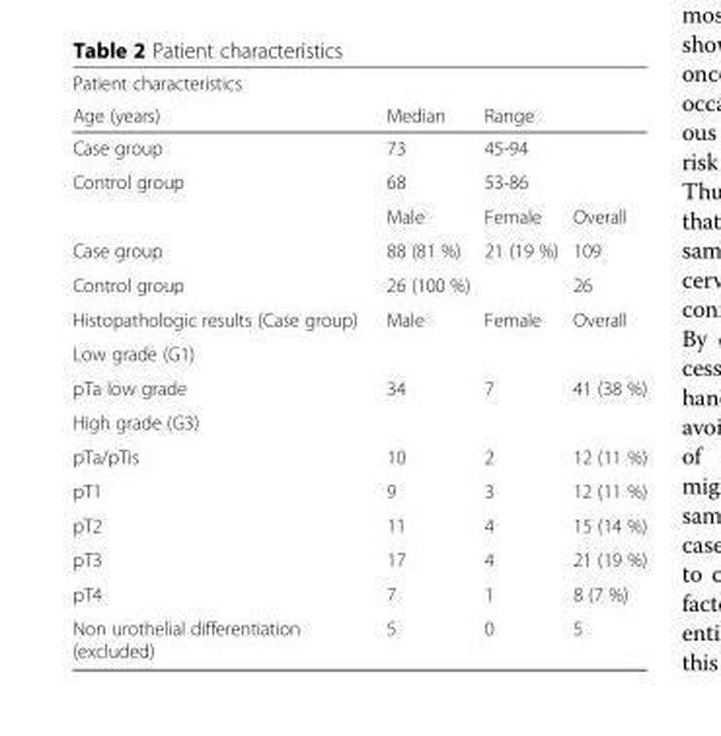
<table><thead><tr><td rowspan="2">Patient characteristics Age (years)</td><td rowspan="2">Median</td><td rowspan="2">Range</td><td rowspan="2"></td></tr><tr></tr></thead><tbody><tr><td>Case group</td><td>73</td><td>45-94</td><td></td></tr><tr><td rowspan="2">Control group</td><td>68</td><td>53-86</td><td></td></tr><tr><td>Male</td><td>Female</td><td>Overall</td></tr><tr><td>Case group</td><td>88 (81 %)</td><td>21 (19 %)</td><td>109</td></tr><tr><td>Control group</td><td>26 (100 %)</td><td></td><td>26</td></tr><tr><td>Histopathologic results (Case group)</td><td>Male</td><td>Female</td><td>Overall</td></tr><tr><td colspan="4">Low grade (G1)</td></tr><tr><td>pTa low grade</td><td>34</td><td>7</td><td>41 (38 %)</td></tr><tr><td colspan="4">High grade (G3)</td></tr><tr><td>pTa/pTis</td><td>10</td><td>2</td><td>12 (11 %)</td></tr><tr><td>pT1</td><td>9</td><td>3</td><td>12 (11 %)</td></tr><tr><td>pT2</td><td>11</td><td>4</td><td>15 (14 %)</td></tr><tr><td>pT3</td><td>17</td><td>4</td><td>21 (19 %)</td></tr><tr><td>pT4</td><td>7</td><td>1</td><td>8 (7 %)</td></tr><tr><td>Non urothelial differentiation (excluded)</td><td>5</td><td>0</td><td>5</td></tr></tbody></table>